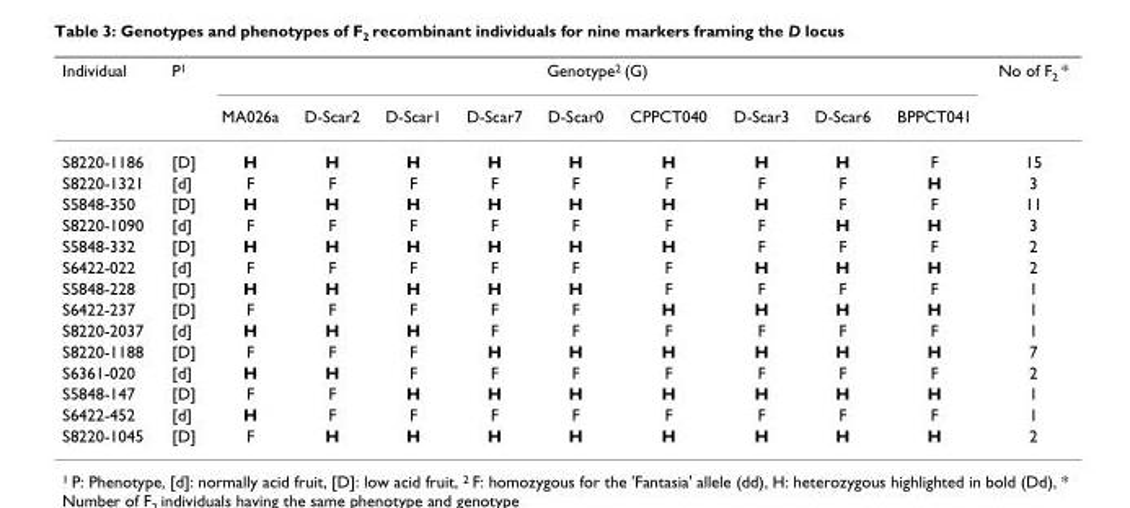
<table><thead><tr><td rowspan="2">Individual</td><td rowspan="2">P<sup>1</sup></td><td colspan="9">Genotype<sup>2</sup> (G)</td><td rowspan="2">No of F<sub>2</sub> *</td></tr><tr><td>MA026a</td><td>D-Scar2</td><td>D-Scar1</td><td>D-Scar7</td><td>D-Scar0</td><td>CPPCT040</td><td>D-Scar3</td><td>D-Scar6</td><td>BPPCT041</td></tr></thead><tbody><tr><td>S8220-1186</td><td>[D]</td><td>H</td><td>H</td><td>H</td><td>H</td><td>H</td><td>H</td><td>H</td><td>H</td><td>F</td><td>15</td></tr><tr><td>S8220-1321</td><td>[d]</td><td>F</td><td>F</td><td>F</td><td>F</td><td>F</td><td>F</td><td>F</td><td>F</td><td>H</td><td>3</td></tr><tr><td>S5848-350</td><td>[D]</td><td>H</td><td>H</td><td>H</td><td>H</td><td>H</td><td>H</td><td>H</td><td>F</td><td>F</td><td>11</td></tr><tr><td>S8220-1090</td><td>[d]</td><td>F</td><td>F</td><td>F</td><td>F</td><td>F</td><td>F</td><td>F</td><td>H</td><td>H</td><td>3</td></tr><tr><td>S5848-332</td><td>[D]</td><td>H</td><td>H</td><td>H</td><td>H</td><td>H</td><td>H</td><td>F</td><td>F</td><td>F</td><td>2</td></tr><tr><td>S6422-022</td><td>[d]</td><td>F</td><td>F</td><td>F</td><td>F</td><td>F</td><td>F</td><td>H</td><td>H</td><td>H</td><td>2</td></tr><tr><td>S5848-228</td><td>[D]</td><td>H</td><td>H</td><td>H</td><td>H</td><td>H</td><td>F</td><td>F</td><td>F</td><td>F</td><td>1</td></tr><tr><td>S6422-237</td><td>[D]</td><td>F</td><td>F</td><td>F</td><td>F</td><td>F</td><td>H</td><td>H</td><td>H</td><td>H</td><td>1</td></tr><tr><td>S8220-2037</td><td>[d]</td><td>H</td><td>H</td><td>H</td><td>F</td><td>F</td><td>F</td><td>F</td><td>F</td><td>F</td><td>1</td></tr><tr><td>S8220-1188</td><td>[D]</td><td>F</td><td>F</td><td>F</td><td>H</td><td>H</td><td>H</td><td>H</td><td>H</td><td>H</td><td>7</td></tr><tr><td>S6361-020</td><td>[d]</td><td>H</td><td>H</td><td>F</td><td>F</td><td>F</td><td>F</td><td>F</td><td>F</td><td>F</td><td>2</td></tr><tr><td>S5848-147</td><td>[D]</td><td>F</td><td>F</td><td>H</td><td>H</td><td>H</td><td>H</td><td>H</td><td>H</td><td>H</td><td>1</td></tr><tr><td>S6422-452</td><td>[d]</td><td>H</td><td>F</td><td>F</td><td>F</td><td>F</td><td>F</td><td>F</td><td>F</td><td>F</td><td>1</td></tr><tr><td>S8220-1045</td><td>[D]</td><td>F</td><td>H</td><td>H</td><td>H</td><td>H</td><td>H</td><td>H</td><td>H</td><td>H</td><td>2</td></tr></tbody></table>